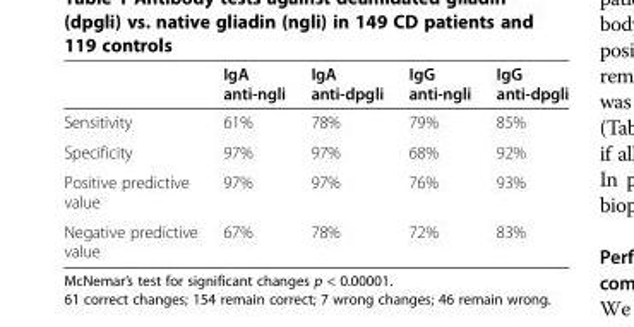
<table><thead><tr><td></td><td>IgA anti-ngli</td><td>IgA anti-dpgli</td><td>IgG anti-ngli</td><td>IgG anti-dpgli</td></tr></thead><tbody><tr><td>Sensitivity</td><td>61%</td><td>78%</td><td>79%</td><td>85%</td></tr><tr><td>Specificity</td><td>97%</td><td>97%</td><td>68%</td><td>92%</td></tr><tr><td>Positive predictive value</td><td>97%</td><td>97%</td><td>76%</td><td>93%</td></tr><tr><td>Negative predictive value</td><td>67%</td><td>78%</td><td>72%</td><td>83%</td></tr></tbody></table>